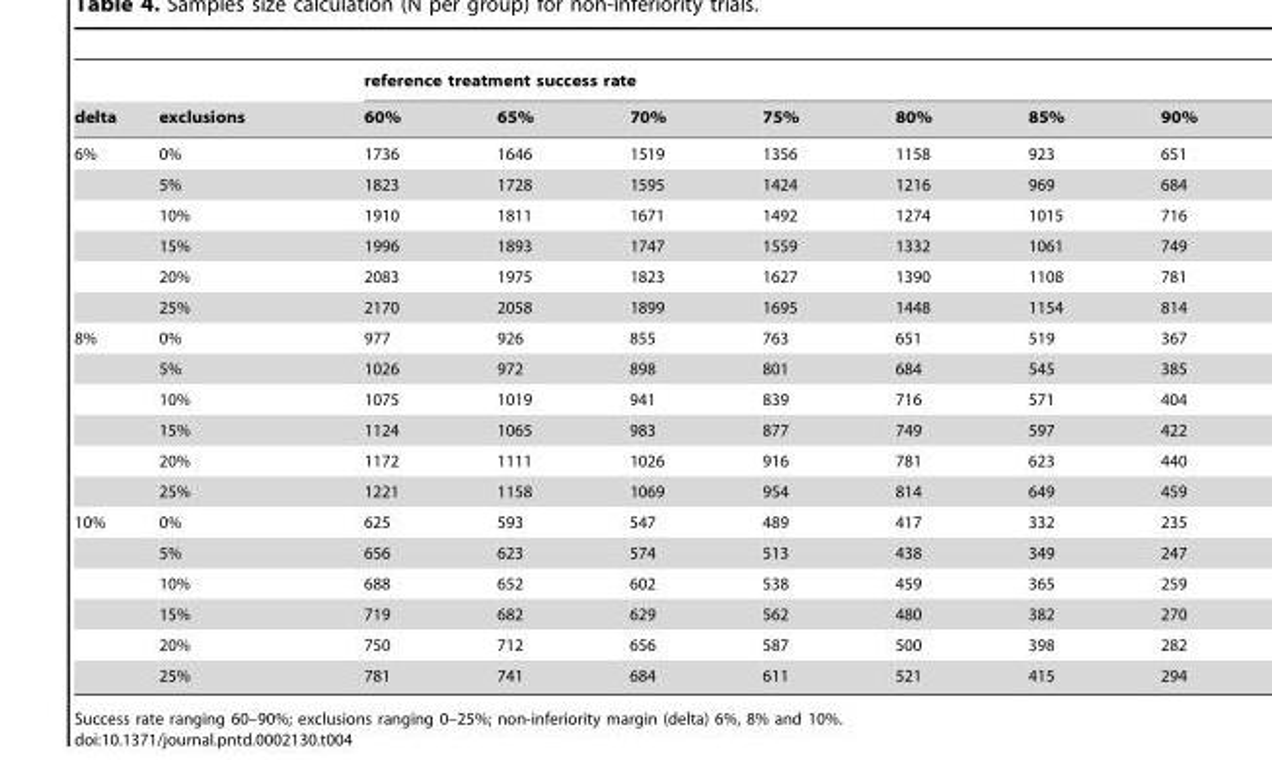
<table><thead><tr><td rowspan="2">delta</td><td rowspan="2">exclusions</td><td colspan="7">reference treatment success rate</td></tr><tr><td>60%</td><td>65%</td><td>70%</td><td>75%</td><td>80%</td><td>85%</td><td>90%</td></tr></thead><tbody><tr><td rowspan="6">6%</td><td>0%</td><td>1736</td><td>1646</td><td>1519</td><td>1356</td><td>1158</td><td>923</td><td>651</td></tr><tr><td>5%</td><td>1823</td><td>1728</td><td>1595</td><td>1424</td><td>1216</td><td>969</td><td>684</td></tr><tr><td>10%</td><td>1910</td><td>1811</td><td>1671</td><td>1492</td><td>1274</td><td>1015</td><td>716</td></tr><tr><td>15%</td><td>1996</td><td>1893</td><td>1747</td><td>1559</td><td>1332</td><td>1061</td><td>749</td></tr><tr><td>20%</td><td>2083</td><td>1975</td><td>1823</td><td>1627</td><td>1390</td><td>1108</td><td>781</td></tr><tr><td>25%</td><td>2170</td><td>2058</td><td>1899</td><td>1695</td><td>1448</td><td>1154</td><td>814</td></tr><tr><td rowspan="6">8%</td><td>0%</td><td>977</td><td>926</td><td>855</td><td>763</td><td>651</td><td>519</td><td>367</td></tr><tr><td>5%</td><td>1026</td><td>972</td><td>898</td><td>801</td><td>684</td><td>545</td><td>385</td></tr><tr><td>10%</td><td>1075</td><td>1019</td><td>941</td><td>839</td><td>716</td><td>571</td><td>404</td></tr><tr><td>15%</td><td>1124</td><td>1065</td><td>983</td><td>877</td><td>749</td><td>597</td><td>422</td></tr><tr><td>20%</td><td>1172</td><td>1111</td><td>1026</td><td>916</td><td>781</td><td>623</td><td>440</td></tr><tr><td>25%</td><td>1221</td><td>1158</td><td>1069</td><td>954</td><td>814</td><td>649</td><td>459</td></tr><tr><td rowspan="6">10%</td><td>0%</td><td>625</td><td>593</td><td>547</td><td>489</td><td>417</td><td>332</td><td>235</td></tr><tr><td>5%</td><td>656</td><td>623</td><td>574</td><td>513</td><td>438</td><td>349</td><td>247</td></tr><tr><td>10%</td><td>688</td><td>652</td><td>602</td><td>538</td><td>459</td><td>365</td><td>259</td></tr><tr><td>15%</td><td>719</td><td>682</td><td>629</td><td>562</td><td>480</td><td>382</td><td>270</td></tr><tr><td>20%</td><td>750</td><td>712</td><td>656</td><td>587</td><td>500</td><td>398</td><td>282</td></tr><tr><td>25%</td><td>781</td><td>741</td><td>684</td><td>611</td><td>521</td><td>415</td><td>294</td></tr></tbody></table>